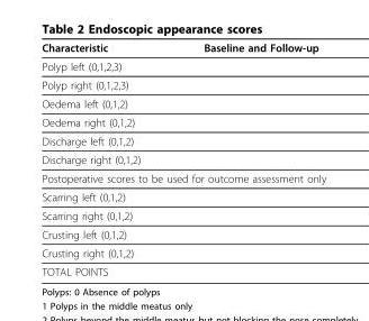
<table><thead><tr><td>Characteristic</td><td>Baseline and Follow-up</td></tr></thead><tbody><tr><td colspan="2">Polyp left (0,1,2,3)</td></tr><tr><td colspan="2">Polyp right (0,1,2,3)</td></tr><tr><td colspan="2">Oedema left (0,1,2)</td></tr><tr><td colspan="2">Oedema right (0,1,2)</td></tr><tr><td colspan="2">Discharge left (0,1,2)</td></tr><tr><td colspan="2">Discharge right (0,1,2)</td></tr><tr><td colspan="2">Postoperative scores to be used for outcome assessment only</td></tr><tr><td colspan="2">Scarring left (0,1,2)</td></tr><tr><td colspan="2">Scarring right (0,1,2)</td></tr><tr><td colspan="2">Crusting left (0,1,2)</td></tr><tr><td colspan="2">Crusting right (0,1,2)</td></tr><tr><td>TOTAL POINTS</td><td></td></tr></tbody></table>